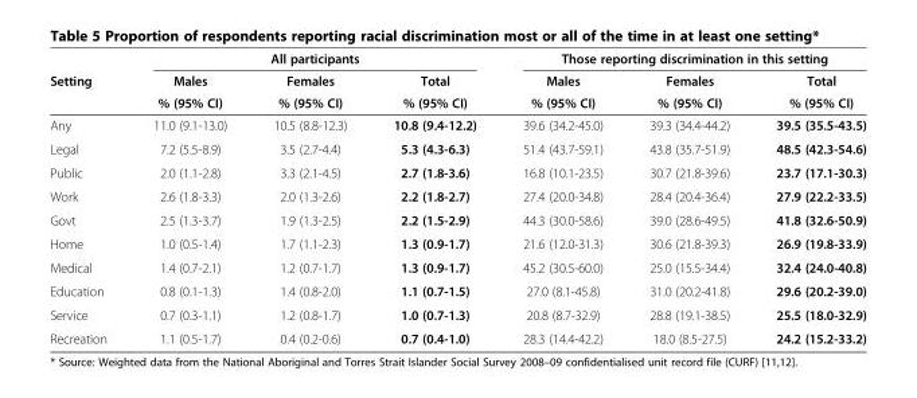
<table><thead><tr><td rowspan="3">Setting</td><td colspan="3">All participants</td><td colspan="3">Those reporting discrimination in this setting</td></tr><tr><td rowspan="2">Males % (95% CI)</td><td rowspan="2">Females % (95% CI)</td><td rowspan="2">Total % (95% CI)</td><td rowspan="2">Males % (95% CI)</td><td rowspan="2">Females % (95% CI)</td><td rowspan="2">Total % (95% CI)</td></tr><tr></tr></thead><tbody><tr><td>Any</td><td>11.0 (9.1-13.0)</td><td>10.5 (8.8-12.3)</td><td>10.8 (9.4-12.2)</td><td>39.6 (34.2-45.0)</td><td>39.3 (34.4-44.2)</td><td>39.5 (35.5-43.5)</td></tr><tr><td>Legal</td><td>7.2 (5.5-8.9)</td><td>3.5 (2.7-4.4)</td><td>5.3 (4.3-6.3)</td><td>51.4 (43.7-59.1)</td><td>43.8 (35.7-51.9)</td><td>48.5 (42.3-54.6)</td></tr><tr><td>Public</td><td>2.0 (1.1-2.8)</td><td>3.3 (2.1-4.5)</td><td>2.7 (1.8-3.6)</td><td>16.8 (10.1-23.5)</td><td>30.7 (21.8-39.6)</td><td>23.7 (17.1-30.3)</td></tr><tr><td>Work</td><td>2.6 (1.8-3.3)</td><td>2.0 (1.3-2.6)</td><td>2.2 (1.8-2.7)</td><td>27.4 (20.0-34.8)</td><td>28.4 (20.4-36.4)</td><td>27.9 (22.2-33.5)</td></tr><tr><td>Govt</td><td>2.5 (1.3-3.7)</td><td>1.9 (1.3-2.5)</td><td>2.2 (1.5-2.9)</td><td>44.3 (30.0-58.6)</td><td>39.0 (28.6-49.5)</td><td>41.8 (32.6-50.9)</td></tr><tr><td>Home</td><td>1.0 (0.5-1.4)</td><td>1.7 (1.1-2.3)</td><td>1.3 (0.9-1.7)</td><td>21.6 (12.0-31.3)</td><td>30.6 (21.8-39.3)</td><td>26.9 (19.8-33.9)</td></tr><tr><td>Medical</td><td>1.4 (0.7-2.1)</td><td>1.2 (0.7-1.7)</td><td>1.3 (0.9-1.7)</td><td>45.2 (30.5-60.0)</td><td>25.0 (15.5-34.4)</td><td>32.4 (24.0-40.8)</td></tr><tr><td>Education</td><td>0.8 (0.1-1.3)</td><td>1.4 (0.8-2.0)</td><td>1.1 (0.7-1.5)</td><td>27.0 (8.1-45.8)</td><td>31.0 (20.2-41.8)</td><td>29.6 (20.2-39.0)</td></tr><tr><td>Service</td><td>0.7 (0.3-1.1)</td><td>1.2 (0.8-1.7)</td><td>1.0 (0.7-1.3)</td><td>20.8 (8.7-32.9)</td><td>28.8 (19.1-38.5)</td><td>25.5 (18.0-32.9)</td></tr><tr><td>Recreation</td><td>1.1 (0.5-1.7)</td><td>0.4 (0.2-0.6)</td><td>0.7 (0.4-1.0)</td><td>28.3 (14.4-42.2)</td><td>18.0 (8.5-27.5)</td><td>24.2 (15.2-33.2)</td></tr></tbody></table>